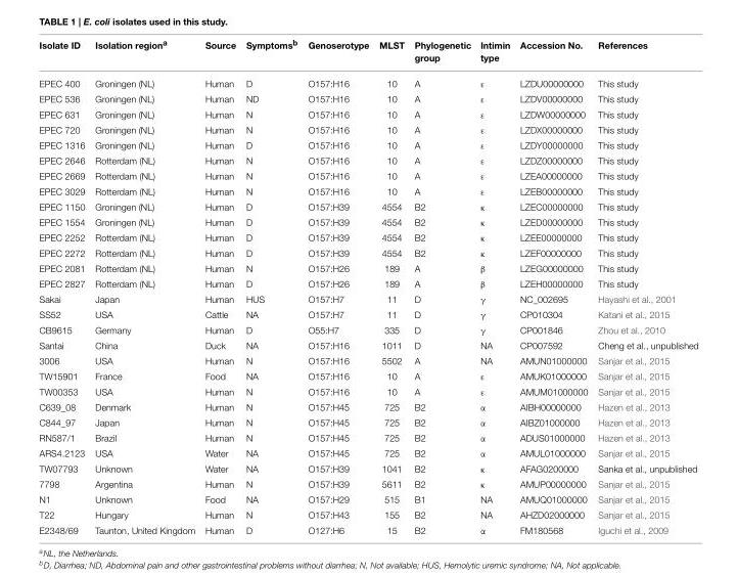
<table><thead><tr><td>Isolate ID</td><td>Isolation region<sup>a</sup></td><td>Source</td><td>Symptoms<sup>b</sup></td><td>Genoserotype</td><td>MLST</td><td>Phylogenetic group</td><td>Intimin type</td><td>Accession No.</td><td>References</td></tr></thead><tbody><tr><td>EPEC 400</td><td>Groningen (NL)</td><td>Human</td><td>D</td><td>O157:H16</td><td>10</td><td>A</td><td>ε</td><td>LZDU00000000</td><td>This study</td></tr><tr><td>EPEC 536</td><td>Groningen (NL)</td><td>Human</td><td>ND</td><td>O157:H16</td><td>10</td><td>A</td><td>ε</td><td>LZDV00000000</td><td>This study</td></tr><tr><td>EPEC 631</td><td>Groningen (NL)</td><td>Human</td><td>N</td><td>O157:H16</td><td>10</td><td>A</td><td>ε</td><td>LZDW00000000</td><td>This study</td></tr><tr><td>EPEC 720</td><td>Groningen (NL)</td><td>Human</td><td>N</td><td>O157:H16</td><td>10</td><td>A</td><td>ε</td><td>LZDX00000000</td><td>This study</td></tr><tr><td>EPEC 1316</td><td>Groningen (NL)</td><td>Human</td><td>D</td><td>O157:H16</td><td>10</td><td>A</td><td>ε</td><td>LZDY00000000</td><td>This study</td></tr><tr><td>EPEC 2646</td><td>Rotterdam (NL)</td><td>Human</td><td>N</td><td>O157:H16</td><td>10</td><td>A</td><td>ε</td><td>LZDZ00000000</td><td>This study</td></tr><tr><td>EPEC 2669</td><td>Rotterdam (NL)</td><td>Human</td><td>N</td><td>O157:H16</td><td>10</td><td>A</td><td>ε</td><td>LZEA00000000</td><td>This study</td></tr><tr><td>EPEC 3029</td><td>Rotterdam (NL)</td><td>Human</td><td>N</td><td>O157:H16</td><td>10</td><td>A</td><td>ε</td><td>LZEB00000000</td><td>This study</td></tr><tr><td>EPEC 1150</td><td>Groningen (NL)</td><td>Human</td><td>D</td><td>O157:H39</td><td>4554</td><td>B2</td><td>κ</td><td>LZEC00000000</td><td>This study</td></tr><tr><td>EPEC 1554</td><td>Groningen (NL)</td><td>Human</td><td>D</td><td>O157:H39</td><td>4554</td><td>B2</td><td>κ</td><td>LZED00000000</td><td>This study</td></tr><tr><td>EPEC 2252</td><td>Rotterdam (NL)</td><td>Human</td><td>D</td><td>O157:H39</td><td>4554</td><td>B2</td><td>κ</td><td>LZEE00000000</td><td>This study</td></tr><tr><td>EPEC 2272</td><td>Rotterdam (NL)</td><td>Human</td><td>D</td><td>O157:H39</td><td>4554</td><td>B2</td><td>κ</td><td>LZEF00000000</td><td>This study</td></tr><tr><td>EPEC 2081</td><td>Rotterdam (NL)</td><td>Human</td><td>N</td><td>O157:H26</td><td>189</td><td>A</td><td>β</td><td>LZEG00000000</td><td>This study</td></tr><tr><td>EPEC 2827</td><td>Rotterdam (NL)</td><td>Human</td><td>D</td><td>O157:H26</td><td>189</td><td>A</td><td>β</td><td>LZEH00000000</td><td>This study</td></tr><tr><td>Sakai</td><td>Japan</td><td>Human</td><td>HUS</td><td>O157:H7</td><td>11</td><td>D</td><td>γ</td><td>NC_002695</td><td>Hayashi et al., 2001</td></tr><tr><td>SS52</td><td>USA</td><td>Cattle</td><td>NA</td><td>O157:H7</td><td>11</td><td>D</td><td>γ</td><td>CP010304</td><td>Katani et al., 2015</td></tr><tr><td>CB9615</td><td>Germany</td><td>Human</td><td>D</td><td>O55:H7</td><td>335</td><td>D</td><td>γ</td><td>CP001846</td><td>Zhou et al., 2010</td></tr><tr><td>Santai</td><td>China</td><td>Duck</td><td>NA</td><td>O157:H16</td><td>1011</td><td>D</td><td>NA</td><td>CP007592</td><td>Cheng et al., unpublished</td></tr><tr><td>3006</td><td>USA</td><td>Human</td><td>N</td><td>O157:H16</td><td>5502</td><td>A</td><td>NA</td><td>AMUN01000000</td><td>Sanjar et al., 2015</td></tr><tr><td>TW15901</td><td>France</td><td>Food</td><td>NA</td><td>O157:H16</td><td>10</td><td>A</td><td>ε</td><td>AMUK01000000</td><td>Sanjar et al., 2015</td></tr><tr><td>TW00353</td><td>USA</td><td>Human</td><td>N</td><td>O157:H16</td><td>10</td><td>A</td><td>ε</td><td>AMUM01000000</td><td>Sanjar et al., 2015</td></tr><tr><td>C639_08</td><td>Denmark</td><td>Human</td><td>N</td><td>O157:H45</td><td>725</td><td>B2</td><td>α</td><td>AIBH00000000</td><td>Hazen et al., 2013</td></tr><tr><td>C844_97</td><td>Japan</td><td>Human</td><td>N</td><td>O157:H45</td><td>725</td><td>B2</td><td>α</td><td>AIBZ01000000</td><td>Hazen et al., 2013</td></tr><tr><td>RN587/1</td><td>Brazil</td><td>Human</td><td>N</td><td>O157:H45</td><td>725</td><td>B2</td><td>α</td><td>ADUS01000000</td><td>Hazen et al., 2013</td></tr><tr><td>ARS4.2123</td><td>USA</td><td>Water</td><td>NA</td><td>O157:H45</td><td>725</td><td>B2</td><td>α</td><td>AMUL01000000</td><td>Sanjar et al., 2015</td></tr><tr><td>TW07793</td><td>Unknown</td><td>Water</td><td>NA</td><td>O157:H39</td><td>1041</td><td>B2</td><td>κ</td><td>AFAG0200000</td><td>Sanka et al., unpublished</td></tr><tr><td>7798</td><td>Argentina</td><td>Human</td><td>N</td><td>O157:H39</td><td>5611</td><td>B2</td><td>κ</td><td>AMUP00000000</td><td>Sanjar et al., 2015</td></tr><tr><td>N1</td><td>Unknown</td><td>Food</td><td>NA</td><td>O157:H29</td><td>515</td><td>B1</td><td>NA</td><td>AMUQ01000000</td><td>Sanjar et al., 2015</td></tr><tr><td>T22</td><td>Hungary</td><td>Human</td><td>N</td><td>O157:H43</td><td>155</td><td>B2</td><td>NA</td><td>AHZD02000000</td><td>Sanjar et al., 2015</td></tr><tr><td>E2348/69</td><td>Taunton, United Kingdom</td><td>Human</td><td>D</td><td>O127:H6</td><td>15</td><td>B2</td><td>α</td><td>FM180568</td><td>Iguchi et al., 2009</td></tr></tbody></table>